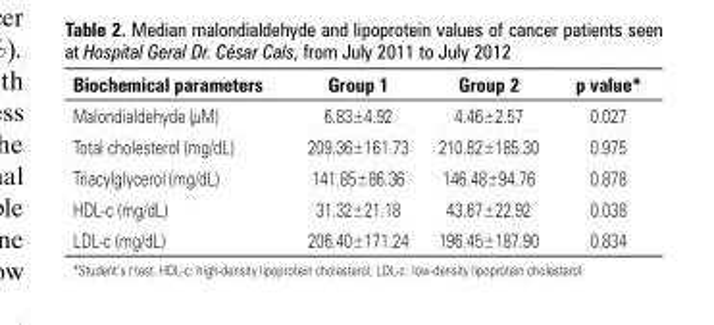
<table><thead><tr><td>Biochemical parameters</td><td>Group 1</td><td>Group 2</td><td>p value*</td></tr></thead><tbody><tr><td>Malondialdehyde (μM)</td><td>6.83±4.92</td><td>4.46±2.57</td><td>0.027</td></tr><tr><td>Total cholesterol (mg/dL)</td><td>209.36±161.73</td><td>210.82±185.30</td><td>0.975</td></tr><tr><td>Triacylglycerol (mg/dL)</td><td>141.85±86.36</td><td>146.48±94.76</td><td>0.878</td></tr><tr><td>HDL-c (mg/dL)</td><td>31.32±21.18</td><td>43.67±22.92</td><td>0.038</td></tr><tr><td>LDL-c (mg/dL)</td><td>206.40±171.24</td><td>196.45±187.90</td><td>0.834</td></tr></tbody></table>